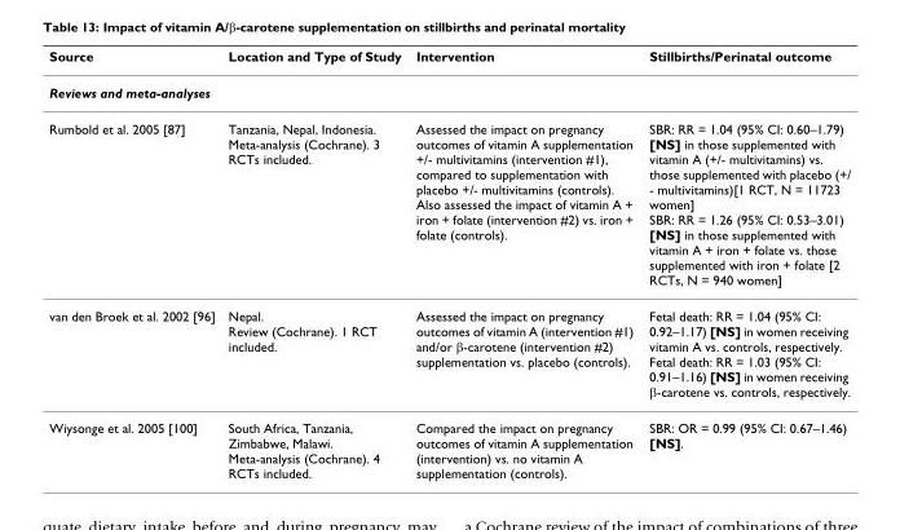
<table><thead><tr><td>Source</td><td>Location and Type of Study</td><td>Intervention</td><td>Stillbirths/Perinatal outcome</td></tr></thead><tbody><tr><td colspan="4">Reviews and meta-analyses</td></tr><tr><td>Rumbold et al. 2005 [87]</td><td>Tanzania, Nepal, Indonesia. Meta-analysis (Cochrane). 3 RCTs included.</td><td>Assessed the impact on pregnancy outcomes of vitamin A supplementation +/- multivitamins (intervention #1), compared to supplementation with placebo +/- multivitamins (controls). Also assessed the impact of vitamin A + iron + folate (intervention #2) vs. iron + folate (controls).</td><td>SBR: RR = 1.04 (95% CI: 0.60–1.79) [NS] in those supplemented with vitamin A (+/- multivitamins) vs. those supplemented with placebo (+/ - multivitamins)[1 RCT, N = 11723 women] SBR: RR = 1.26 (95% CI: 0.53–3.01) [NS] in those supplemented with vitamin A + iron + folate vs. those supplemented with iron + folate [2 RCTs, N = 940 women]</td></tr><tr><td>van den Broek et al. 2002 [96]</td><td>Nepal. Review (Cochrane). 1 RCT included.</td><td>Assessed the impact on pregnancy outcomes of vitamin A (intervention #1) and/or β-carotene (intervention #2) supplementation vs. placebo (controls).</td><td>Fetal death: RR = 1.04 (95% CI: 0.92–1.17) [NS] in women receiving vitamin A vs. controls, respectively. Fetal death: RR = 1.03 (95% CI: 0.91–1.16) [NS] in women receiving β-carotene vs. controls, respectively.</td></tr><tr><td>Wiysonge et al. 2005 [100]</td><td>South Africa, Tanzania, Zimbabwe, Malawi. Meta-analysis (Cochrane). 4 RCTs included.</td><td>Compared the impact on pregnancy outcomes of vitamin A supplementation (intervention) vs. no vitamin A supplementation (controls).</td><td>SBR: OR = 0.99 (95% CI: 0.67–1.46) [NS].</td></tr></tbody></table>